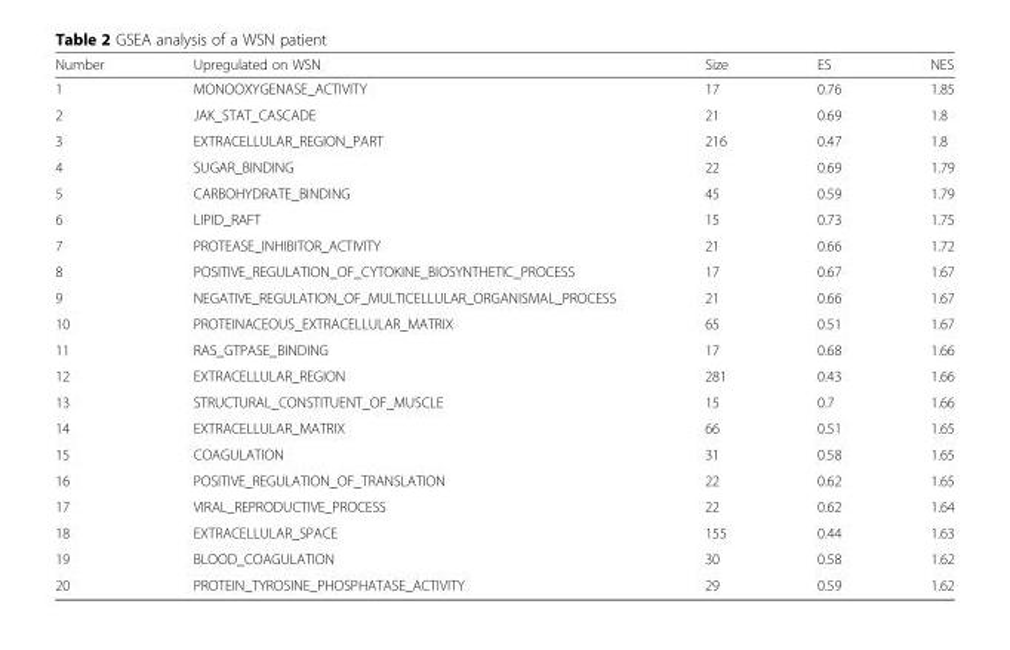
<table><thead><tr><td>Number</td><td>Upregulated on WSN</td><td>Size</td><td>ES</td><td>NES</td></tr></thead><tbody><tr><td>1</td><td>MONOOXYGENASE_ACTIVITY</td><td>17</td><td>0.76</td><td>1.85</td></tr><tr><td>2</td><td>JAK_STAT_CASCADE</td><td>21</td><td>0.69</td><td>1.8</td></tr><tr><td>3</td><td>EXTRACELLULAR_REGION_PART</td><td>216</td><td>0.47</td><td>1.8</td></tr><tr><td>4</td><td>SUGAR_BINDING</td><td>22</td><td>0.69</td><td>1.79</td></tr><tr><td>5</td><td>CARBOHYDRATE_BINDING</td><td>45</td><td>0.59</td><td>1.79</td></tr><tr><td>6</td><td>LIPID_RAFT</td><td>15</td><td>0.73</td><td>1.75</td></tr><tr><td>7</td><td>PROTEASE_INHIBITOR_ACTIVITY</td><td>21</td><td>0.66</td><td>1.72</td></tr><tr><td>8</td><td>POSITIVE_REGULATION_OF_CYTOKINE_BIOSYNTHETIC_PROCESS</td><td>17</td><td>0.67</td><td>1.67</td></tr><tr><td>9</td><td>NEGATIVE_REGULATION_OF_MULTICELLULAR_ORGANISMAL_PROCESS</td><td>21</td><td>0.66</td><td>1.67</td></tr><tr><td>10</td><td>PROTEINACEOUS_EXTRACELLULAR_MATRIX</td><td>65</td><td>0.51</td><td>1.67</td></tr><tr><td>11</td><td>RAS_GTPASE_BINDING</td><td>17</td><td>0.68</td><td>1.66</td></tr><tr><td>12</td><td>EXTRACELLULAR_REGION</td><td>281</td><td>0.43</td><td>1.66</td></tr><tr><td>13</td><td>STRUCTURAL_CONSTITUENT_OF_MUSCLE</td><td>15</td><td>0.7</td><td>1.66</td></tr><tr><td>14</td><td>EXTRACELLULAR_MATRIX</td><td>66</td><td>0.51</td><td>1.65</td></tr><tr><td>15</td><td>COAGULATION</td><td>31</td><td>0.58</td><td>1.65</td></tr><tr><td>16</td><td>POSITIVE_REGULATION_OF_TRANSLATION</td><td>22</td><td>0.62</td><td>1.65</td></tr><tr><td>17</td><td>VIRAL_REPRODUCTIVE_PROCESS</td><td>22</td><td>0.62</td><td>1.64</td></tr><tr><td>18</td><td>EXTRACELLULAR_SPACE</td><td>155</td><td>0.44</td><td>1.63</td></tr><tr><td>19</td><td>BLOOD_COAGULATION</td><td>30</td><td>0.58</td><td>1.62</td></tr><tr><td>20</td><td>PROTEIN_TYROSINE_PHOSPHATASE_ACTIVITY</td><td>29</td><td>0.59</td><td>1.62</td></tr></tbody></table>